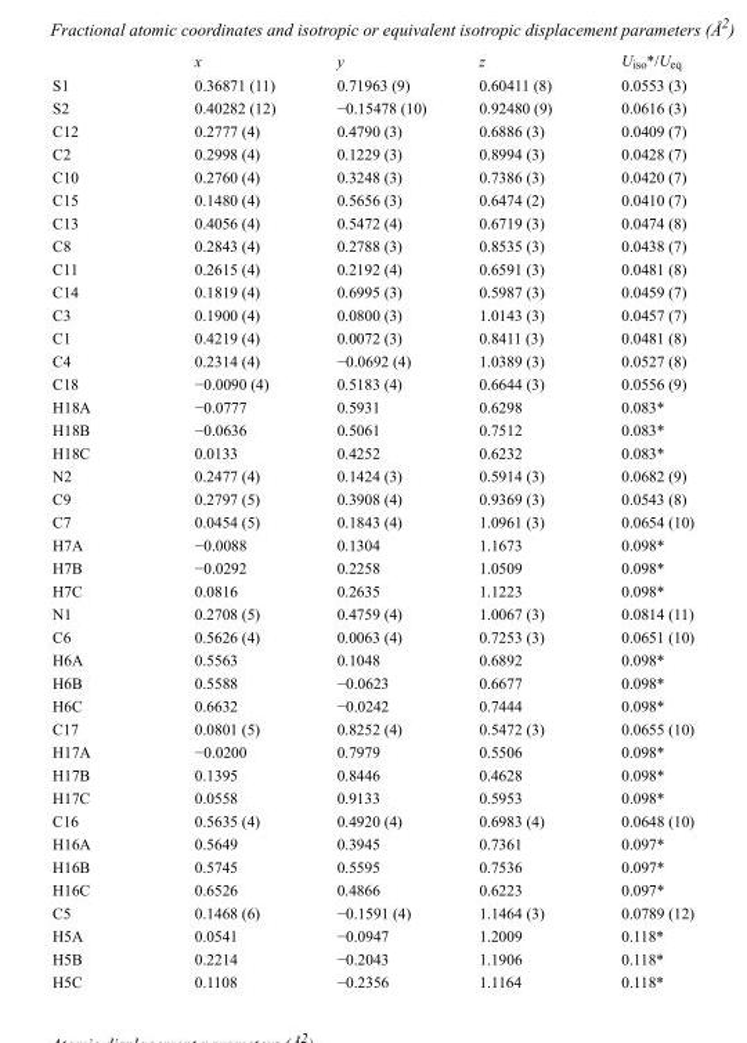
<table><thead><tr><td></td><td>x</td><td>y</td><td>z</td><td>U<sub>iso</sub>*/U<sub>eq</sub></td></tr></thead><tbody><tr><td>S1</td><td>0.36871 (11)</td><td>0.71963 (9)</td><td>0.60411 (8)</td><td>0.0553 (3)</td></tr><tr><td>S2</td><td>0.40282 (12)</td><td>−0.15478 (10)</td><td>0.92480 (9)</td><td>0.0616 (3)</td></tr><tr><td>C12</td><td>0.2777 (4)</td><td>0.4790 (3)</td><td>0.6886 (3)</td><td>0.0409 (7)</td></tr><tr><td>C2</td><td>0.2998 (4)</td><td>0.1229 (3)</td><td>0.8994 (3)</td><td>0.0428 (7)</td></tr><tr><td>C10</td><td>0.2760 (4)</td><td>0.3248 (3)</td><td>0.7386 (3)</td><td>0.0420 (7)</td></tr><tr><td>C15</td><td>0.1480 (4)</td><td>0.5656 (3)</td><td>0.6474 (2)</td><td>0.0410 (7)</td></tr><tr><td>C13</td><td>0.4056 (4)</td><td>0.5472 (4)</td><td>0.6719 (3)</td><td>0.0474 (8)</td></tr><tr><td>C8</td><td>0.2843 (4)</td><td>0.2788 (3)</td><td>0.8535 (3)</td><td>0.0438 (7)</td></tr><tr><td>C11</td><td>0.2615 (4)</td><td>0.2192 (4)</td><td>0.6591 (3)</td><td>0.0481 (8)</td></tr><tr><td>C14</td><td>0.1819 (4)</td><td>0.6995 (3)</td><td>0.5987 (3)</td><td>0.0459 (7)</td></tr><tr><td>C3</td><td>0.1900 (4)</td><td>0.0800 (3)</td><td>1.0143 (3)</td><td>0.0457 (7)</td></tr><tr><td>C1</td><td>0.4219 (4)</td><td>0.0072 (3)</td><td>0.8411 (3)</td><td>0.0481 (8)</td></tr><tr><td>C4</td><td>0.2314 (4)</td><td>−0.0692 (4)</td><td>1.0389 (3)</td><td>0.0527 (8)</td></tr><tr><td>C18</td><td>−0.0090 (4)</td><td>0.5183 (4)</td><td>0.6644 (3)</td><td>0.0556 (9)</td></tr><tr><td>H18A</td><td>−0.0777</td><td>0.5931</td><td>0.6298</td><td>0.083*</td></tr><tr><td>H18B</td><td>−0.0636</td><td>0.5061</td><td>0.7512</td><td>0.083*</td></tr><tr><td>H18C</td><td>0.0133</td><td>0.4252</td><td>0.6232</td><td>0.083*</td></tr><tr><td>N2</td><td>0.2477 (4)</td><td>0.1424 (3)</td><td>0.5914 (3)</td><td>0.0682 (9)</td></tr><tr><td>C9</td><td>0.2797 (5)</td><td>0.3908 (4)</td><td>0.9369 (3)</td><td>0.0543 (8)</td></tr><tr><td>C7</td><td>0.0454 (5)</td><td>0.1843 (4)</td><td>1.0961 (3)</td><td>0.0654 (10)</td></tr><tr><td>H7A</td><td>−0.0088</td><td>0.1304</td><td>1.1673</td><td>0.098*</td></tr><tr><td>H7B</td><td>−0.0292</td><td>0.2258</td><td>1.0509</td><td>0.098*</td></tr><tr><td>H7C</td><td>0.0816</td><td>0.2635</td><td>1.1223</td><td>0.098*</td></tr><tr><td>N1</td><td>0.2708 (5)</td><td>0.4759 (4)</td><td>1.0067 (3)</td><td>0.0814 (11)</td></tr><tr><td>C6</td><td>0.5626 (4)</td><td>0.0063 (4)</td><td>0.7253 (3)</td><td>0.0651 (10)</td></tr><tr><td>H6A</td><td>0.5563</td><td>0.1048</td><td>0.6892</td><td>0.098*</td></tr><tr><td>H6B</td><td>0.5588</td><td>−0.0623</td><td>0.6677</td><td>0.098*</td></tr><tr><td>H6C</td><td>0.6632</td><td>−0.0242</td><td>0.7444</td><td>0.098*</td></tr><tr><td>C17</td><td>0.0801 (5)</td><td>0.8252 (4)</td><td>0.5472 (3)</td><td>0.0655 (10)</td></tr><tr><td>H17A</td><td>−0.0200</td><td>0.7979</td><td>0.5506</td><td>0.098*</td></tr><tr><td>H17B</td><td>0.1395</td><td>0.8446</td><td>0.4628</td><td>0.098*</td></tr><tr><td>H17C</td><td>0.0558</td><td>0.9133</td><td>0.5953</td><td>0.098*</td></tr><tr><td>C16</td><td>0.5635 (4)</td><td>0.4920 (4)</td><td>0.6983 (4)</td><td>0.0648 (10)</td></tr><tr><td>H16A</td><td>0.5649</td><td>0.3945</td><td>0.7361</td><td>0.097*</td></tr><tr><td>H16B</td><td>0.5745</td><td>0.5595</td><td>0.7536</td><td>0.097*</td></tr><tr><td>H16C</td><td>0.6526</td><td>0.4866</td><td>0.6223</td><td>0.097*</td></tr><tr><td>C5</td><td>0.1468 (6)</td><td>−0.1591 (4)</td><td>1.1464 (3)</td><td>0.0789 (12)</td></tr><tr><td>H5A</td><td>0.0541</td><td>−0.0947</td><td>1.2009</td><td>0.118*</td></tr><tr><td>H5B</td><td>0.2214</td><td>−0.2043</td><td>1.1906</td><td>0.118*</td></tr><tr><td>H5C</td><td>0.1108</td><td>−0.2356</td><td>1.1164</td><td>0.118*</td></tr></tbody></table>